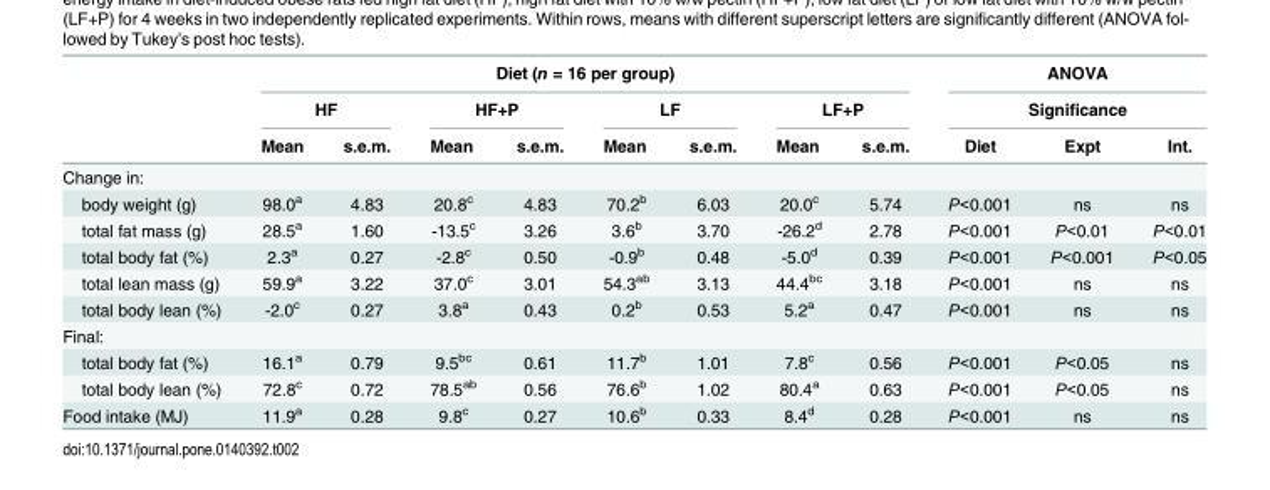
<table><thead><tr><td rowspan="3"></td><td colspan="8">Diet (n = 16 per group)</td><td rowspan="2" colspan="3">ANOVA Significance</td></tr><tr><td colspan="2">HF</td><td colspan="2">HF+P</td><td colspan="2">LF</td><td colspan="2">LF+P</td></tr><tr><td>Mean</td><td>s.e.m.</td><td>Mean</td><td>s.e.m.</td><td>Mean</td><td>s.e.m.</td><td>Mean</td><td>s.e.m.</td><td>Diet</td><td>Expt</td><td>Int.</td></tr></thead><tbody><tr><td colspan="12">Change in:</td></tr><tr><td>body weight (g)</td><td>98.0<sup>a</sup></td><td>4.83</td><td>20.8<sup>c</sup></td><td>4.83</td><td>70.2<sup>b</sup></td><td>6.03</td><td>20.0<sup>c</sup></td><td>5.74</td><td>P&lt;0.001</td><td>ns</td><td>ns</td></tr><tr><td>total fat mass (g)</td><td>28.5<sup>a</sup></td><td>1.60</td><td>-13.5<sup>c</sup></td><td>3.26</td><td>3.6<sup>b</sup></td><td>3.70</td><td>-26.2<sup>d</sup></td><td>2.78</td><td>P&lt;0.001</td><td>P&lt;0.01</td><td>P&lt;0.01</td></tr><tr><td>total body fat (%)</td><td>2.3<sup>a</sup></td><td>0.27</td><td>-2.8<sup>c</sup></td><td>0.50</td><td>-0.9<sup>b</sup></td><td>0.48</td><td>-5.0<sup>d</sup></td><td>0.39</td><td>P&lt;0.001</td><td>P&lt;0.001</td><td>P&lt;0.05</td></tr><tr><td>total lean mass (g)</td><td>59.9<sup>a</sup></td><td>3.22</td><td>37.0<sup>c</sup></td><td>3.01</td><td>54.3<sup>ab</sup></td><td>3.13</td><td>44.4<sup>bc</sup></td><td>3.18</td><td>P&lt;0.001</td><td>ns</td><td>ns</td></tr><tr><td>total body lean (%)</td><td>-2.0<sup>c</sup></td><td>0.27</td><td>3.8<sup>a</sup></td><td>0.43</td><td>0.2<sup>b</sup></td><td>0.53</td><td>5.2<sup>a</sup></td><td>0.47</td><td>P&lt;0.001</td><td>ns</td><td>ns</td></tr><tr><td colspan="12">Final:</td></tr><tr><td>total body fat (%)</td><td>16.1<sup>a</sup></td><td>0.79</td><td>9.5<sup>bc</sup></td><td>0.61</td><td>11.7<sup>b</sup></td><td>1.01</td><td>7.8<sup>c</sup></td><td>0.56</td><td>P&lt;0.001</td><td>P&lt;0.05</td><td>ns</td></tr><tr><td>total body lean (%)</td><td>72.8<sup>c</sup></td><td>0.72</td><td>78.5<sup>ab</sup></td><td>0.56</td><td>76.6<sup>b</sup></td><td>1.02</td><td>80.4<sup>a</sup></td><td>0.63</td><td>P&lt;0.001</td><td>P&lt;0.05</td><td>ns</td></tr><tr><td>Food intake (MJ)</td><td>11.9<sup>a</sup></td><td>0.28</td><td>9.8<sup>c</sup></td><td>0.27</td><td>10.6<sup>b</sup></td><td>0.33</td><td>8.4<sup>d</sup></td><td>0.28</td><td>P&lt;0.001</td><td>ns</td><td>ns</td></tr></tbody></table>